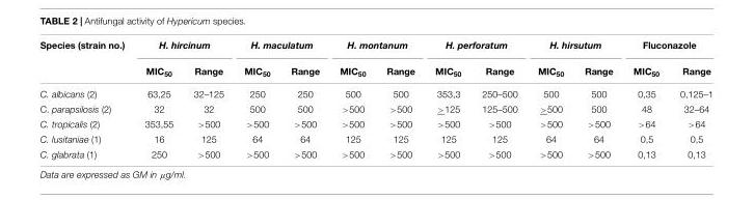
<table><thead><tr><td rowspan="2">Species (strain no.)</td><td colspan="2">H. hircinum</td><td colspan="2">H. maculatum</td><td colspan="2">H. montanum</td><td colspan="2">H. perforatum</td><td colspan="2">H. hirsutum</td><td colspan="2">Fluconazole</td></tr><tr><td>MIC<sub>50</sub></td><td>Range</td><td>MIC<sub>50</sub></td><td>Range</td><td>MIC<sub>50</sub></td><td>Range</td><td>MIC<sub>50</sub></td><td>Range</td><td>MIC<sub>50</sub></td><td>Range</td><td>MIC<sub>50</sub></td><td>Range</td></tr></thead><tbody><tr><td>C. albicans (2)</td><td>63,25</td><td>32–125</td><td>250</td><td>250</td><td>500</td><td>500</td><td>353,3</td><td>250–500</td><td>500</td><td>500</td><td>0,35</td><td>0,125–1</td></tr><tr><td>C. parapsilosis (2)</td><td>32</td><td>32</td><td>500</td><td>500</td><td>&gt;500</td><td>&gt;500</td><td>&gt;125</td><td>125–500</td><td>&gt;500</td><td>500</td><td>48</td><td>32–64</td></tr><tr><td>C. tropicalis (2)</td><td>353,55</td><td>&gt;500</td><td>&gt;500</td><td>&gt;500</td><td>&gt;500</td><td>&gt;500</td><td>&gt;500</td><td>&gt;500</td><td>&gt;500</td><td>&gt;500</td><td>&gt;64</td><td>&gt;64</td></tr><tr><td>C. lusitaniae (1)</td><td>16</td><td>125</td><td>64</td><td>64</td><td>125</td><td>125</td><td>125</td><td>125</td><td>64</td><td>64</td><td>0,5</td><td>0,5</td></tr><tr><td>C. glabrata (1)</td><td>250</td><td>&gt;500</td><td>&gt;500</td><td>&gt;500</td><td>&gt;500</td><td>&gt;500</td><td>&gt;500</td><td>&gt;500</td><td>&gt;500</td><td>&gt;500</td><td>0,13</td><td>0,13</td></tr></tbody></table>